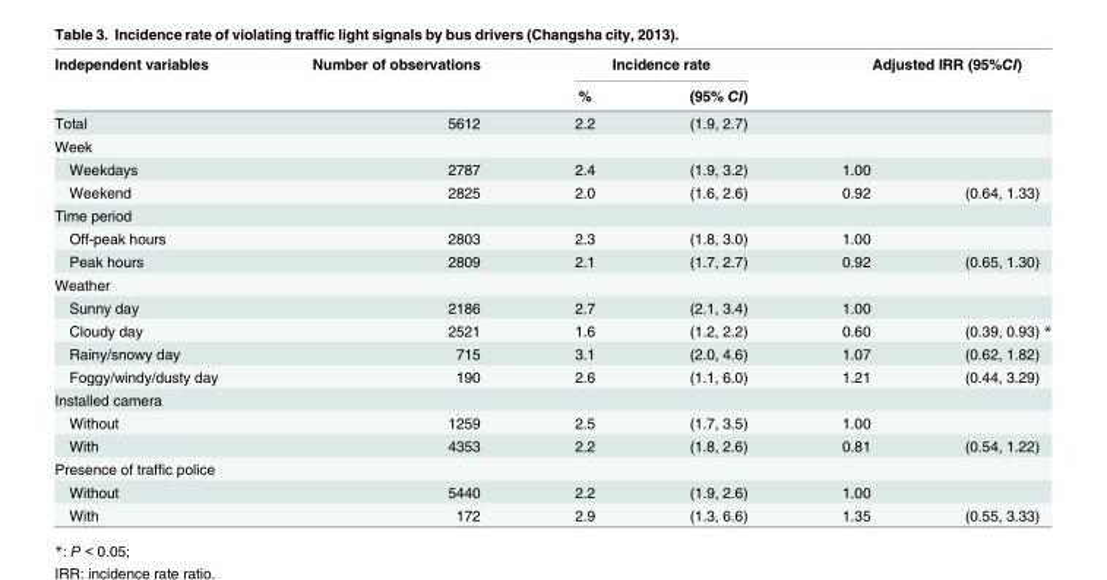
<table><thead><tr><td rowspan="2">Independent variables</td><td rowspan="2">Number of observations</td><td colspan="2">Incidence rate</td><td colspan="2">Adjusted IRR (95%CI)</td></tr><tr><td>%</td><td>(95% CI)</td><td></td><td></td></tr></thead><tbody><tr><td>Total</td><td>5612</td><td>2.2</td><td>(1.9, 2.7)</td><td></td><td></td></tr><tr><td colspan="6">Week</td></tr><tr><td>Weekdays</td><td>2787</td><td>2.4</td><td>(1.9, 3.2)</td><td>1.00</td><td></td></tr><tr><td>Weekend</td><td>2825</td><td>2.0</td><td>(1.6, 2.6)</td><td>0.92</td><td>(0.64, 1.33)</td></tr><tr><td colspan="6">Time period</td></tr><tr><td>Off-peak hours</td><td>2803</td><td>2.3</td><td>(1.8, 3.0)</td><td>1.00</td><td></td></tr><tr><td>Peak hours</td><td>2809</td><td>2.1</td><td>(1.7, 2.7)</td><td>0.92</td><td>(0.65, 1.30)</td></tr><tr><td colspan="6">Weather</td></tr><tr><td>Sunny day</td><td>2186</td><td>2.7</td><td>(2.1, 3.4)</td><td>1.00</td><td></td></tr><tr><td>Cloudy day</td><td>2521</td><td>1.6</td><td>(1.2, 2.2)</td><td>0.60</td><td>(0.39, 0.93) *</td></tr><tr><td>Rainy/snowy day</td><td>715</td><td>3.1</td><td>(2.0, 4.6)</td><td>1.07</td><td>(0.62, 1.82)</td></tr><tr><td>Foggy/windy/dusty day</td><td>190</td><td>2.6</td><td>(1.1, 6.0)</td><td>1.21</td><td>(0.44, 3.29)</td></tr><tr><td colspan="6">Installed camera</td></tr><tr><td>Without</td><td>1259</td><td>2.5</td><td>(1.7, 3.5)</td><td>1.00</td><td></td></tr><tr><td>With</td><td>4353</td><td>2.2</td><td>(1.8, 2.6)</td><td>0.81</td><td>(0.54, 1.22)</td></tr><tr><td colspan="6">Presence of traffic police</td></tr><tr><td>Without</td><td>5440</td><td>2.2</td><td>(1.9, 2.6)</td><td>1.00</td><td></td></tr><tr><td>With</td><td>172</td><td>2.9</td><td>(1.3, 6.6)</td><td>1.35</td><td>(0.55, 3.33)</td></tr></tbody></table>